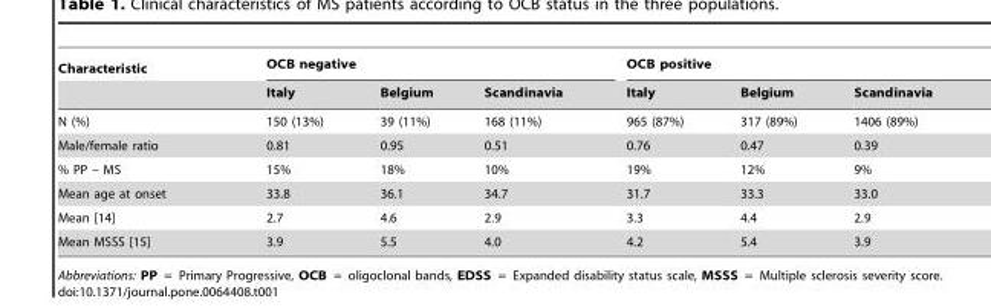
<table><thead><tr><td rowspan="2">Characteristic</td><td colspan="3">OCB negative</td><td colspan="3">OCB positive</td></tr><tr><td>Italy</td><td>Belgium</td><td>Scandinavia</td><td>Italy</td><td>Belgium</td><td>Scandinavia</td></tr></thead><tbody><tr><td>N (%)</td><td>150 (13%)</td><td>39 (11%)</td><td>168 (11%)</td><td>965 (87%)</td><td>317 (89%)</td><td>1406 (89%)</td></tr><tr><td>Male/female ratio</td><td>0.81</td><td>0.95</td><td>0.51</td><td>0.76</td><td>0.47</td><td>0.39</td></tr><tr><td>% PP – MS</td><td>15%</td><td>18%</td><td>10%</td><td>19%</td><td>12%</td><td>9%</td></tr><tr><td>Mean age at onset</td><td>33.8</td><td>36.1</td><td>34.7</td><td>31.7</td><td>33.3</td><td>33.0</td></tr><tr><td>Mean [14]</td><td>2.7</td><td>4.6</td><td>2.9</td><td>3.3</td><td>4.4</td><td>2.9</td></tr><tr><td>Mean MSSS [15]</td><td>3.9</td><td>5.5</td><td>4.0</td><td>4.2</td><td>5.4</td><td>3.9</td></tr></tbody></table>